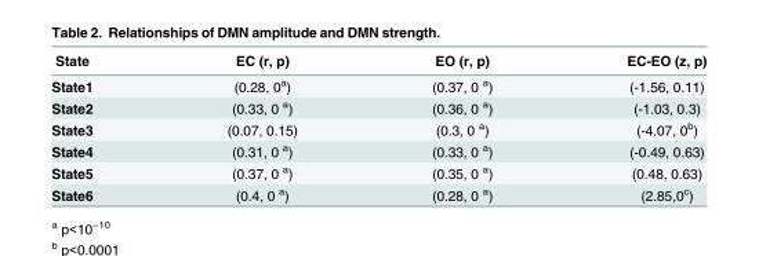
<table><thead><tr><td>State</td><td>EC (r, p)</td><td>EO (r, p)</td><td>EC-EO (z, p)</td></tr></thead><tbody><tr><td>State1</td><td>(0.28, 0<sup>a</sup>)</td><td>(0.37, 0 <sup>a</sup>)</td><td>(-1.56, 0.11)</td></tr><tr><td>State2</td><td>(0.33, 0 <sup>a</sup>)</td><td>(0.36, 0 <sup>a</sup>)</td><td>(-1.03, 0.3)</td></tr><tr><td>State3</td><td>(0.07, 0.15)</td><td>(0.3, 0 <sup>a</sup>)</td><td>(-4.07, 0<sup>b</sup>)</td></tr><tr><td>State4</td><td>(0.31, 0 <sup>a</sup>)</td><td>(0.33, 0 <sup>a</sup>)</td><td>(-0.49, 0.63)</td></tr><tr><td>State5</td><td>(0.37, 0 <sup>a</sup>)</td><td>(0.35, 0 <sup>a</sup>)</td><td>(0.48, 0.63)</td></tr><tr><td>State6</td><td>(0.4, 0 <sup>a</sup>)</td><td>(0.28, 0 <sup>a</sup>)</td><td>(2.85,0<sup>c</sup>)</td></tr></tbody></table>